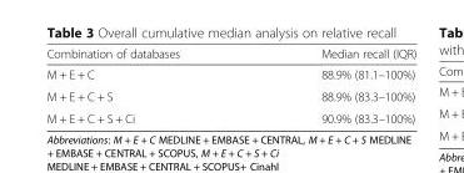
<table><thead><tr><td>Combination of databases</td><td>Median recall (IQR)</td></tr></thead><tbody><tr><td>M + E + C</td><td>88.9% (81.1–100%)</td></tr><tr><td>M + E + C + S</td><td>88.9% (83.3–100%)</td></tr><tr><td>M + E + C + S + Ci</td><td>90.9% (83.3–100%)</td></tr></tbody></table>